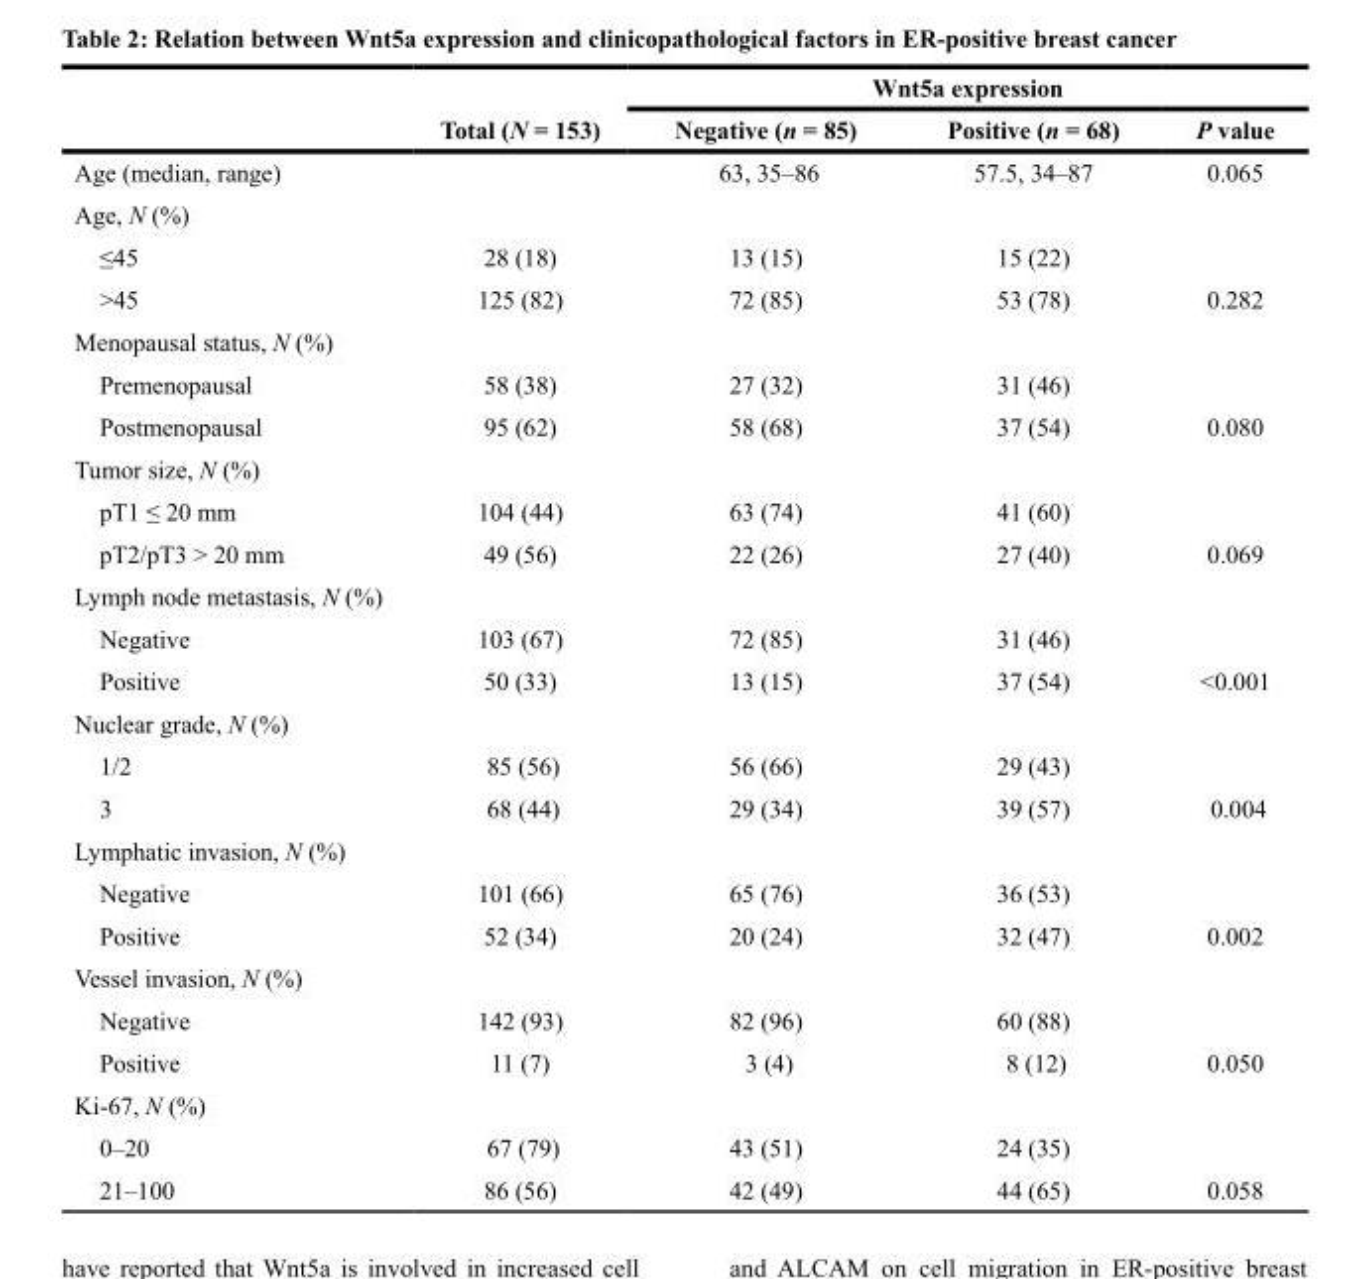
<table><thead><tr><td rowspan="2"></td><td rowspan="2">Total (N = 153)</td><td colspan="3">Wnt5a expression</td></tr><tr><td>Negative (n = 85)</td><td>Positive (n = 68)</td><td>P value</td></tr></thead><tbody><tr><td>Age (median, range)</td><td></td><td>63, 35–86</td><td>57.5, 34–87</td><td>0.065</td></tr><tr><td colspan="5">Age, N (%)</td></tr><tr><td>≤45</td><td>28 (18)</td><td>13 (15)</td><td>15 (22)</td><td></td></tr><tr><td>&gt;45</td><td>125 (82)</td><td>72 (85)</td><td>53 (78)</td><td>0.282</td></tr><tr><td colspan="5">Menopausal status, N (%)</td></tr><tr><td>Premenopausal</td><td>58 (38)</td><td>27 (32)</td><td>31 (46)</td><td></td></tr><tr><td>Postmenopausal</td><td>95 (62)</td><td>58 (68)</td><td>37 (54)</td><td>0.080</td></tr><tr><td colspan="5">Tumor size, N (%)</td></tr><tr><td>pT1 ≤ 20 mm</td><td>104 (44)</td><td>63 (74)</td><td>41 (60)</td><td></td></tr><tr><td>pT2/pT3 &gt; 20 mm</td><td>49 (56)</td><td>22 (26)</td><td>27 (40)</td><td>0.069</td></tr><tr><td colspan="5">Lymph node metastasis, N (%)</td></tr><tr><td>Negative</td><td>103 (67)</td><td>72 (85)</td><td>31 (46)</td><td></td></tr><tr><td>Positive</td><td>50 (33)</td><td>13 (15)</td><td>37 (54)</td><td>&lt;0.001</td></tr><tr><td colspan="5">Nuclear grade, N (%)</td></tr><tr><td>1/2</td><td>85 (56)</td><td>56 (66)</td><td>29 (43)</td><td></td></tr><tr><td>3</td><td>68 (44)</td><td>29 (34)</td><td>39 (57)</td><td>0.004</td></tr><tr><td colspan="5">Lymphatic invasion, N (%)</td></tr><tr><td>Negative</td><td>101 (66)</td><td>65 (76)</td><td>36 (53)</td><td></td></tr><tr><td>Positive</td><td>52 (34)</td><td>20 (24)</td><td>32 (47)</td><td>0.002</td></tr><tr><td colspan="5">Vessel invasion, N (%)</td></tr><tr><td>Negative</td><td>142 (93)</td><td>82 (96)</td><td>60 (88)</td><td></td></tr><tr><td>Positive</td><td>11 (7)</td><td>3 (4)</td><td>8 (12)</td><td>0.050</td></tr><tr><td colspan="5">Ki-67, N (%)</td></tr><tr><td>0–20</td><td>67 (79)</td><td>43 (51)</td><td>24 (35)</td><td></td></tr><tr><td>21–100</td><td>86 (56)</td><td>42 (49)</td><td>44 (65)</td><td>0.058</td></tr></tbody></table>